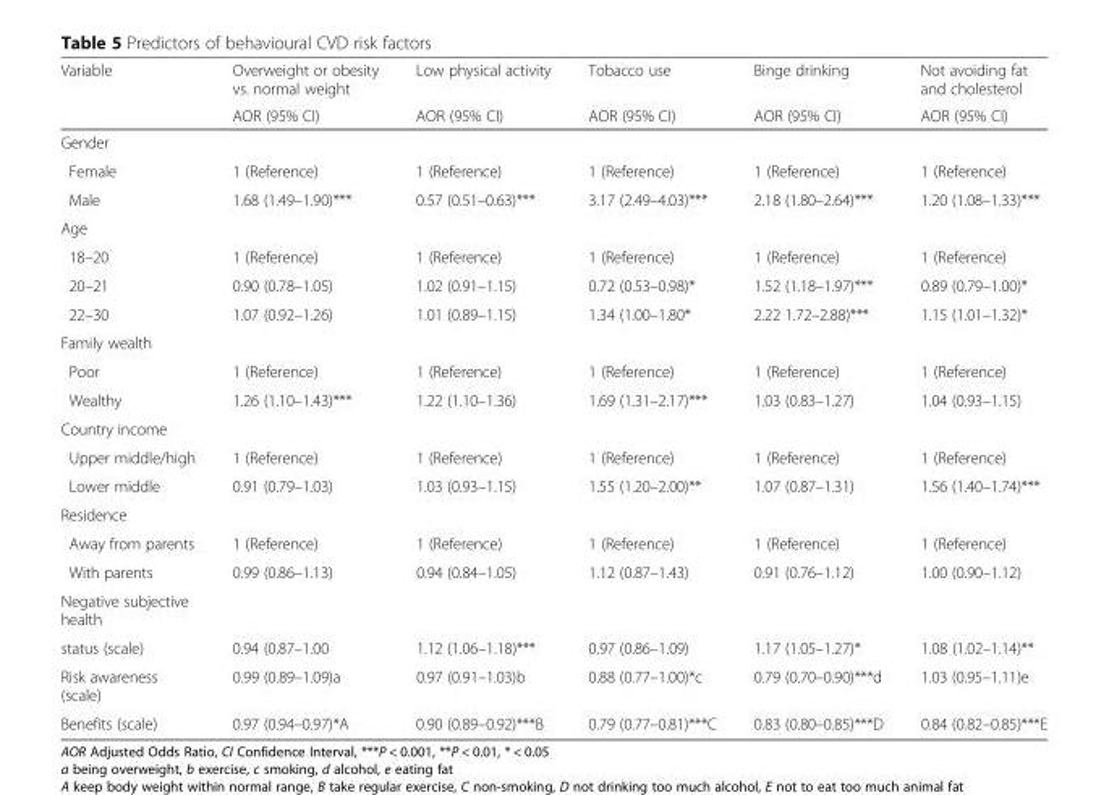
<table><thead><tr><td rowspan="2">Variable</td><td rowspan="2">Overweight or obesity vs. normal weight AOR (95% CI)</td><td rowspan="2">Low physical activity AOR (95% CI)</td><td rowspan="2">Tobacco use AOR (95% CI)</td><td rowspan="2">Binge drinking AOR (95% CI)</td><td rowspan="2">Not avoiding fat and cholesterol AOR (95% CI)</td></tr><tr></tr></thead><tbody><tr><td colspan="6">Gender</td></tr><tr><td>Female</td><td>1 (Reference)</td><td>1 (Reference)</td><td>1 (Reference)</td><td>1 (Reference)</td><td>1 (Reference)</td></tr><tr><td>Male</td><td>1.68 (1.49–1.90)***</td><td>0.57 (0.51–0.63)***</td><td>3.17 (2.49–4.03)***</td><td>2.18 (1.80–2.64)***</td><td>1.20 (1.08–1.33)***</td></tr><tr><td colspan="6">Age</td></tr><tr><td>18–20</td><td>1 (Reference)</td><td>1 (Reference)</td><td>1 (Reference)</td><td>1 (Reference)</td><td>1 (Reference)</td></tr><tr><td>20–21</td><td>0.90 (0.78–1.05)</td><td>1.02 (0.91–1.15)</td><td>0.72 (0.53–0.98)*</td><td>1.52 (1.18–1.97)***</td><td>0.89 (0.79–1.00)*</td></tr><tr><td>22–30</td><td>1.07 (0.92–1.26)</td><td>1.01 (0.89–1.15)</td><td>1.34 (1.00–1.80*</td><td>2.22 1.72–2.88)***</td><td>1.15 (1.01–1.32)*</td></tr><tr><td colspan="6">Family wealth</td></tr><tr><td>Poor</td><td>1 (Reference)</td><td>1 (Reference)</td><td>1 (Reference)</td><td>1 (Reference)</td><td>1 (Reference)</td></tr><tr><td>Wealthy</td><td>1.26 (1.10–1.43)***</td><td>1.22 (1.10–1.36)</td><td>1.69 (1.31–2.17)***</td><td>1.03 (0.83–1.27)</td><td>1.04 (0.93–1.15)</td></tr><tr><td colspan="6">Country income</td></tr><tr><td>Upper middle/high</td><td>1 (Reference)</td><td>1 (Reference)</td><td>1 (Reference)</td><td>1 (Reference)</td><td>1 (Reference)</td></tr><tr><td>Lower middle</td><td>0.91 (0.79–1.03)</td><td>1.03 (0.93–1.15)</td><td>1.55 (1.20–2.00)**</td><td>1.07 (0.87–1.31)</td><td>1.56 (1.40–1.74)***</td></tr><tr><td colspan="6">Residence</td></tr><tr><td>Away from parents</td><td>1 (Reference)</td><td>1 (Reference)</td><td>1 (Reference)</td><td>1 (Reference)</td><td>1 (Reference)</td></tr><tr><td>With parents</td><td>0.99 (0.86–1.13)</td><td>0.94 (0.84–1.05)</td><td>1.12 (0.87–1.43)</td><td>0.91 (0.76–1.12)</td><td>1.00 (0.90–1.12)</td></tr><tr><td colspan="6">Negative subjective health</td></tr><tr><td>status (scale)</td><td>0.94 (0.87–1.00</td><td>1.12 (1.06–1.18)***</td><td>0.97 (0.86–1.09)</td><td>1.17 (1.05–1.27)*</td><td>1.08 (1.02–1.14)**</td></tr><tr><td>Risk awareness (scale)</td><td>0.99 (0.89–1.09)a</td><td>0.97 (0.91–1.03)b</td><td>0.88 (0.77–1.00)*c</td><td>0.79 (0.70–0.90)***d</td><td>1.03 (0.95–1.11)e</td></tr><tr><td>Benefits (scale)</td><td>0.97 (0.94–0.97)*A</td><td>0.90 (0.89–0.92)***B</td><td>0.79 (0.77–0.81)***C</td><td>0.83 (0.80–0.85)***D</td><td>0.84 (0.82–0.85)***E</td></tr></tbody></table>